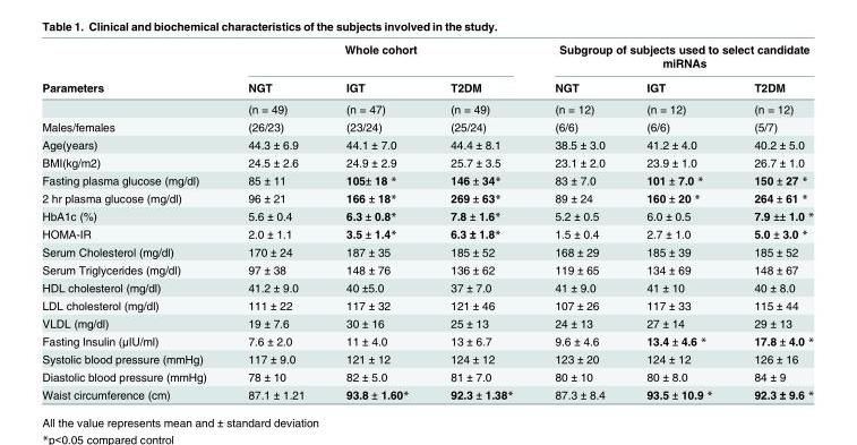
<table><thead><tr><td rowspan="2">Parameters</td><td colspan="3">Whole cohort</td><td colspan="3">Subgroup of subjects used to select candidate miRNAs</td></tr><tr><td>NGT</td><td>IGT</td><td>T2DM</td><td>NGT</td><td>IGT</td><td>T2DM</td></tr></thead><tbody><tr><td></td><td>(n = 49)</td><td>(n = 47)</td><td>(n = 49)</td><td>(n = 12)</td><td>(n = 12)</td><td>(n = 12)</td></tr><tr><td>Males/females</td><td>(26/23)</td><td>(23/24)</td><td>(25/24)</td><td>(6/6)</td><td>(6/6)</td><td>(5/7)</td></tr><tr><td>Age(years)</td><td>44.3 ± 6.9</td><td>44.1 ± 7.0</td><td>44.4 ± 8.1</td><td>38.5 ± 3.0</td><td>41.2 ± 4.0</td><td>40.2 ± 5.0</td></tr><tr><td>BMI(kg/m2)</td><td>24.5 ± 2.6</td><td>24.9 ± 2.9</td><td>25.7 ± 3.5</td><td>23.1 ± 2.0</td><td>23.9 ± 1.0</td><td>26.7 ± 1.0</td></tr><tr><td>Fasting plasma glucose (mg/dl)</td><td>85 ± 11</td><td>105± 18 *</td><td>146 ± 34*</td><td>83 ± 7.0</td><td>101 ± 7.0 *</td><td>150 ± 27 *</td></tr><tr><td>2 hr plasma glucose (mg/dl)</td><td>96 ± 21</td><td>166 ± 18*</td><td>269 ± 63*</td><td>89 ± 24</td><td>160 ± 20 *</td><td>264 ± 61 *</td></tr><tr><td>HbA1c (%)</td><td>5.6 ± 0.4</td><td>6.3 ± 0.8*</td><td>7.8 ± 1.6*</td><td>5.2 ± 0.5</td><td>6.0 ± 0.5</td><td>7.9 ±± 1.0 *</td></tr><tr><td>HOMA-IR</td><td>2.0 ± 1.1</td><td>3.5 ± 1.4*</td><td>6.3 ± 1.8*</td><td>1.5 ± 0.4</td><td>2.7 ± 1.0</td><td>5.0 ± 3.0 *</td></tr><tr><td>Serum Cholesterol (mg/dl)</td><td>170 ± 24</td><td>187 ± 35</td><td>185 ± 52</td><td>168 ± 29</td><td>185 ± 39</td><td>185 ± 52</td></tr><tr><td>Serum Triglycerides (mg/dl)</td><td>97 ± 38</td><td>148 ± 76</td><td>136 ± 62</td><td>119 ± 65</td><td>134 ± 69</td><td>148 ± 67</td></tr><tr><td>HDL cholesterol (mg/dl)</td><td>41.2 ± 9.0</td><td>40 ±5.0</td><td>37 ± 7.0</td><td>41 ± 9.0</td><td>41 ± 10</td><td>40 ± 8.0</td></tr><tr><td>LDL cholesterol (mg/dl)</td><td>111 ± 22</td><td>117 ± 32</td><td>121 ± 46</td><td>107 ± 26</td><td>117 ± 33</td><td>115 ± 44</td></tr><tr><td>VLDL (mg/dl)</td><td>19 ± 7.6</td><td>30 ± 16</td><td>25 ± 13</td><td>24 ± 13</td><td>27 ± 14</td><td>29 ± 13</td></tr><tr><td>Fasting Insulin (μIU/ml)</td><td>7.6 ± 2.0</td><td>11 ± 4.0</td><td>13 ± 6.7</td><td>9.6 ± 4.6</td><td>13.4 ± 4.6 *</td><td>17.8 ± 4.0 *</td></tr><tr><td>Systolic blood pressure (mmHg)</td><td>117 ± 9.0</td><td>121 ± 12</td><td>124 ± 12</td><td>123 ± 20</td><td>124 ± 12</td><td>126 ± 16</td></tr><tr><td>Diastolic blood pressure (mmHg)</td><td>78 ± 10</td><td>82 ± 5.0</td><td>81 ± 7.0</td><td>80 ± 10</td><td>80 ± 8.0</td><td>84 ± 9</td></tr><tr><td>Waist circumference (cm)</td><td>87.1 ± 1.21</td><td>93.8 ± 1.60*</td><td>92.3 ± 1.38*</td><td>87.3 ± 8.4</td><td>93.5 ± 10.9 *</td><td>92.3 ± 9.6 *</td></tr></tbody></table>